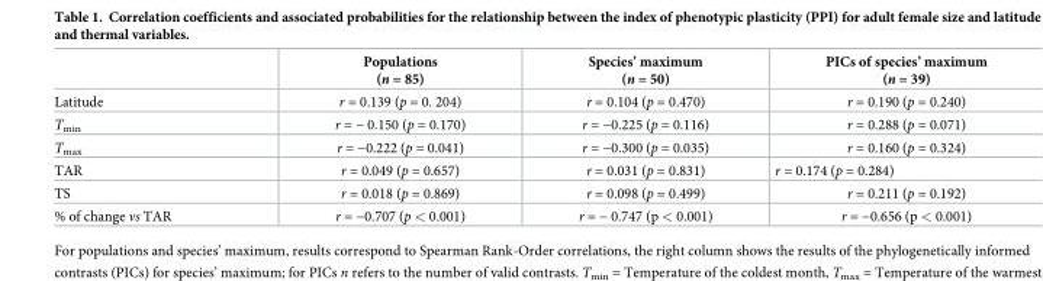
<table><thead><tr><td></td><td>Populations (n = 85)</td><td>Species’ maximum (n = 50)</td><td>PICs of species’ maximum (n = 39)</td></tr></thead><tbody><tr><td>Latitude</td><td>r = 0.139 (p = 0. 204)</td><td>r = 0.104 (p = 0.470)</td><td>r = 0.190 (p = 0.240)</td></tr><tr><td>T<sub>min</sub></td><td>r = − 0.150 (p = 0.170)</td><td>r = −0.225 (p = 0.116)</td><td>r = 0.288 (p = 0.071)</td></tr><tr><td>T<sub>max</sub></td><td>r = −0.222 (p = 0.041)</td><td>r = −0.300 (p = 0.035)</td><td>r = 0.160 (p = 0.324)</td></tr><tr><td>TAR</td><td>r = 0.049 (p = 0.657)</td><td>r = 0.031 (p = 0.831)</td><td>r = 0.174 (p = 0.284)</td></tr><tr><td>TS</td><td>r = 0.018 (p = 0.869)</td><td>r = 0.098 (p = 0.499)</td><td>r = 0.211 (p = 0.192)</td></tr><tr><td>% of change vs TAR</td><td>r = −0.707 (p &lt; 0.001)</td><td>r = − 0.747 (p &lt; 0.001)</td><td>r = −0.656 (p &lt; 0.001)</td></tr></tbody></table>